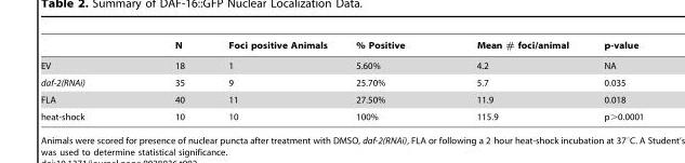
<table><thead><tr><td></td><td>N</td><td>Foci positive Animals</td><td>% Positive</td><td>Mean # foci/animal</td><td>p-value</td></tr></thead><tbody><tr><td>EV</td><td>18</td><td>1</td><td>5.60%</td><td>4.2</td><td>NA</td></tr><tr><td>daf-2(RNAi)</td><td>35</td><td>9</td><td>25.70%</td><td>5.7</td><td>0.035</td></tr><tr><td>FLA</td><td>40</td><td>11</td><td>27.50%</td><td>11.9</td><td>0.018</td></tr><tr><td>heat-shock</td><td>10</td><td>10</td><td>100%</td><td>115.9</td><td>p&gt;0.0001</td></tr></tbody></table>